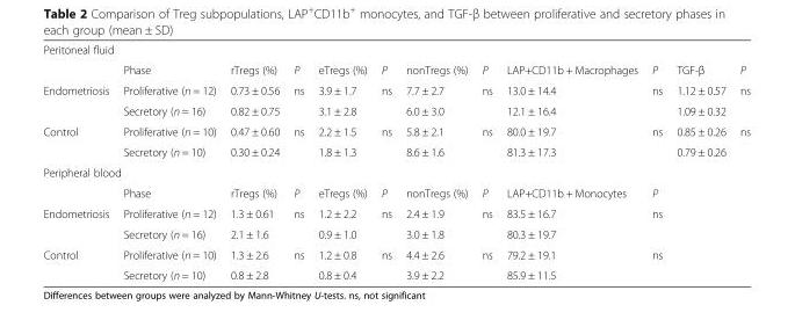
<table><tbody><tr><td colspan="12">Peritoneal fluid</td></tr><tr><td></td><td>Phase</td><td>rTregs (%)</td><td>P</td><td>eTregs (%)</td><td>P</td><td>nonTregs (%)</td><td>P</td><td>LAP+CD11b + Macrophages</td><td>P</td><td>TGF-β</td><td>P</td></tr><tr><td rowspan="2">Endometriosis</td><td>Proliferative (n = 12)</td><td>0.73 ± 0.56</td><td rowspan="2">ns</td><td>3.9 ± 1.7</td><td rowspan="2">ns</td><td>7.7 ± 2.7</td><td rowspan="2">ns</td><td>13.0 ± 14.4</td><td rowspan="2">ns</td><td>1.12 ± 0.57</td><td rowspan="2">ns</td></tr><tr><td>Secretory (n = 16)</td><td>0.82 ± 0.75</td><td>3.1 ± 2.8</td><td>6.0 ± 3.0</td><td>12.1 ± 16.4</td><td>1.09 ± 0.32</td></tr><tr><td rowspan="2">Control</td><td>Proliferative (n = 10)</td><td>0.47 ± 0.60</td><td rowspan="2">ns</td><td>2.2 ± 1.5</td><td rowspan="2">ns</td><td>5.8 ± 2.1</td><td rowspan="2">ns</td><td>80.0 ± 19.7</td><td rowspan="2">ns</td><td>0.85 ± 0.26</td><td rowspan="2">ns</td></tr><tr><td>Secretory (n = 10)</td><td>0.30 ± 0.24</td><td>1.8 ± 1.3</td><td>8.6 ± 1.6</td><td>81.3 ± 17.3</td><td>0.79 ± 0.26</td></tr><tr><td colspan="12">Peripheral blood</td></tr><tr><td></td><td>Phase</td><td>rTregs (%)</td><td>P</td><td>eTregs (%)</td><td>P</td><td>nonTregs (%)</td><td>P</td><td>LAP+CD11b + Monocytes</td><td>P</td><td></td><td></td></tr><tr><td rowspan="2">Endometriosis</td><td>Proliferative (n = 12)</td><td>1.3 ± 0.61</td><td rowspan="2">ns</td><td>1.2 ± 2.2</td><td rowspan="2">ns</td><td>2.4 ± 1.9</td><td rowspan="2">ns</td><td>83.5 ± 16.7</td><td rowspan="2">ns</td><td></td><td></td></tr><tr><td>Secretory (n = 16)</td><td>2.1 ± 1.6</td><td>0.9 ± 1.0</td><td>3.0 ± 1.8</td><td>80.3 ± 19.7</td><td></td><td></td></tr><tr><td rowspan="2">Control</td><td>Proliferative (n = 10)</td><td>1.3 ± 2.6</td><td rowspan="2">ns</td><td>1.2 ± 0.8</td><td rowspan="2">ns</td><td>4.4 ± 2.6</td><td rowspan="2">ns</td><td>79.2 ± 19.1</td><td rowspan="2">ns</td><td></td><td></td></tr><tr><td>Secretory (n = 10)</td><td>0.8 ± 2.8</td><td>0.8 ± 0.4</td><td>3.9 ± 2.2</td><td>85.9 ± 11.5</td><td></td><td></td></tr></tbody></table>